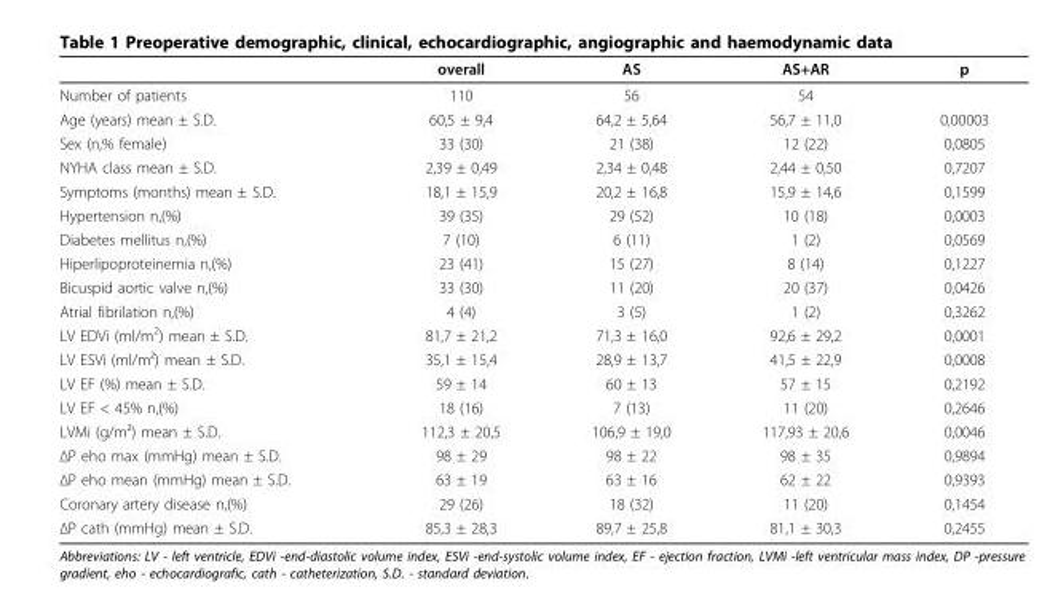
<table><thead><tr><td></td><td>overall</td><td>AS</td><td>AS+AR</td><td>p</td></tr></thead><tbody><tr><td>Number of patients</td><td>110</td><td>56</td><td>54</td><td></td></tr><tr><td>Age (years) mean ± S.D.</td><td>60,5 ± 9,4</td><td>64,2 ± 5,64</td><td>56,7 ± 11,0</td><td>0,00003</td></tr><tr><td>Sex (n,% female)</td><td>33 (30)</td><td>21 (38)</td><td>12 (22)</td><td>0,0805</td></tr><tr><td>NYHA class mean ± S.D.</td><td>2,39 ± 0,49</td><td>2,34 ± 0,48</td><td>2,44 ± 0,50</td><td>0,7207</td></tr><tr><td>Symptoms (months) mean ± S.D.</td><td>18,1 ± 15,9</td><td>20,2 ± 16,8</td><td>15,9 ± 14,6</td><td>0,1599</td></tr><tr><td>Hypertension n,(%)</td><td>39 (35)</td><td>29 (52)</td><td>10 (18)</td><td>0,0003</td></tr><tr><td>Diabetes mellitus n,(%)</td><td>7 (10)</td><td>6 (11)</td><td>1 (2)</td><td>0,0569</td></tr><tr><td>Hiperlipoproteinemia n,(%)</td><td>23 (41)</td><td>15 (27)</td><td>8 (14)</td><td>0,1227</td></tr><tr><td>Bicuspid aortic valve n,(%)</td><td>33 (30)</td><td>11 (20)</td><td>20 (37)</td><td>0,0426</td></tr><tr><td>Atrial fibrilation n,(%)</td><td>4 (4)</td><td>3 (5)</td><td>1 (2)</td><td>0,3262</td></tr><tr><td>LV EDVi (ml/m<sup>2</sup>) mean ± S.D.</td><td>81,7 ± 21,2</td><td>71,3 ± 16,0</td><td>92,6 ± 29,2</td><td>0,0001</td></tr><tr><td>LV ESVi (ml/m²) mean ± S.D.</td><td>35,1 ± 15,4</td><td>28,9 ± 13,7</td><td>41,5 ± 22,9</td><td>0,0008</td></tr><tr><td>LV EF (%) mean ± S.D.</td><td>59 ± 14</td><td>60 ± 13</td><td>57 ± 15</td><td>0,2192</td></tr><tr><td>LV EF &lt; 45% n,(%)</td><td>18 (16)</td><td>7 (13)</td><td>11 (20)</td><td>0,2646</td></tr><tr><td>LVMi (g/m²) mean ± S.D.</td><td>112,3 ± 20,5</td><td>106,9 ± 19,0</td><td>117,93 ± 20,6</td><td>0,0046</td></tr><tr><td>ΔP eho max (mmHg) mean ± S.D.</td><td>98 ± 29</td><td>98 ± 22</td><td>98 ± 35</td><td>0,9894</td></tr><tr><td>ΔP eho mean (mmHg) mean ± S.D.</td><td>63 ± 19</td><td>63 ± 16</td><td>62 ± 22</td><td>0,9393</td></tr><tr><td>Coronary artery disease n,(%)</td><td>29 (26)</td><td>18 (32)</td><td>11 (20)</td><td>0,1454</td></tr><tr><td>ΔP cath (mmHg) mean ± S.D.</td><td>85,3 ± 28,3</td><td>89,7 ± 25,8</td><td>81,1 ± 30,3</td><td>0,2455</td></tr></tbody></table>